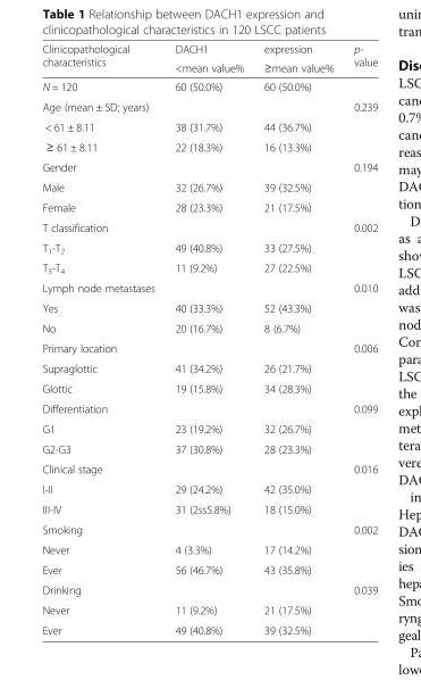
<table><thead><tr><td rowspan="2">Clinicopathological characteristics</td><td rowspan="2">DACH1 &lt;mean value%</td><td rowspan="2">expression ≥mean value%</td><td rowspan="2">p- value</td></tr><tr></tr></thead><tbody><tr><td>N = 120</td><td>60 (50.0%)</td><td>60 (50.0%)</td><td></td></tr><tr><td>Age (mean ± SD; years)</td><td></td><td></td><td>0.239</td></tr><tr><td>&lt; 61 ± 8.11</td><td>38 (31.7%)</td><td>44 (36.7%)</td><td></td></tr><tr><td>≥ 61 ± 8.11</td><td>22 (18.3%)</td><td>16 (13.3%)</td><td></td></tr><tr><td>Gender</td><td></td><td></td><td>0.194</td></tr><tr><td>Male</td><td>32 (26.7%)</td><td>39 (32.5%)</td><td></td></tr><tr><td>Female</td><td>28 (23.3%)</td><td>21 (17.5%)</td><td></td></tr><tr><td>T classification</td><td></td><td></td><td>0.002</td></tr><tr><td>T<sub>1</sub>-T<sub>2</sub></td><td>49 (40.8%)</td><td>33 (27.5%)</td><td></td></tr><tr><td>T<sub>3</sub>-T<sub>4</sub></td><td>11 (9.2%)</td><td>27 (22.5%)</td><td></td></tr><tr><td>Lymph node metastases</td><td></td><td></td><td>0.010</td></tr><tr><td>Yes</td><td>40 (33.3%)</td><td>52 (43.3%)</td><td></td></tr><tr><td>No</td><td>20 (16.7%)</td><td>8 (6.7%)</td><td></td></tr><tr><td>Primary location</td><td></td><td></td><td>0.006</td></tr><tr><td>Supraglottic</td><td>41 (34.2%)</td><td>26 (21.7%)</td><td></td></tr><tr><td>Glottic</td><td>19 (15.8%)</td><td>34 (28.3%)</td><td></td></tr><tr><td>Differentiation</td><td></td><td></td><td>0.099</td></tr><tr><td>G1</td><td>23 (19.2%)</td><td>32 (26.7%)</td><td></td></tr><tr><td>G2-G3</td><td>37 (30.8%)</td><td>28 (23.3%)</td><td></td></tr><tr><td>Clinical stage</td><td></td><td></td><td>0.016</td></tr><tr><td>I-II</td><td>29 (24.2%)</td><td>42 (35.0%)</td><td></td></tr><tr><td>III-IV</td><td>31 (2ss5.8%)</td><td>18 (15.0%)</td><td></td></tr><tr><td>Smoking</td><td></td><td></td><td>0.002</td></tr><tr><td>Never</td><td>4 (3.3%)</td><td>17 (14.2%)</td><td></td></tr><tr><td>Ever</td><td>56 (46.7%)</td><td>43 (35.8%)</td><td></td></tr><tr><td>Drinking</td><td></td><td></td><td>0.039</td></tr><tr><td>Never</td><td>11 (9.2%)</td><td>21 (17.5%)</td><td></td></tr><tr><td>Ever</td><td>49 (40.8%)</td><td>39 (32.5%)</td><td></td></tr></tbody></table>